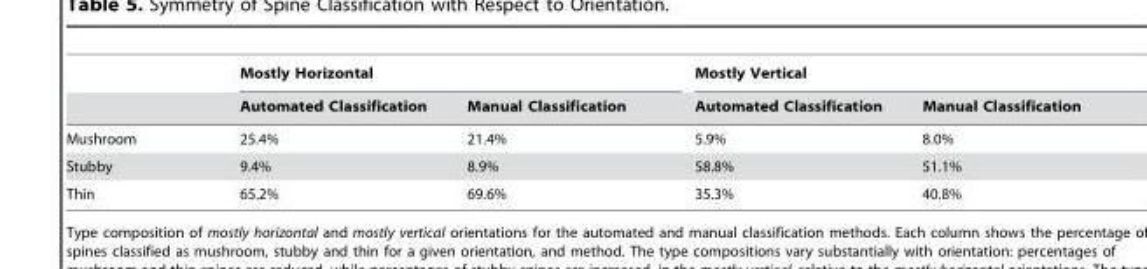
<table><thead><tr><td rowspan="2"></td><td colspan="2">Mostly Horizontal</td><td colspan="2">Mostly Vertical</td></tr><tr><td>Automated Classification</td><td>Manual Classification</td><td>Automated Classification</td><td>Manual Classification</td></tr></thead><tbody><tr><td>Mushroom</td><td>25.4%</td><td>21.4%</td><td>5.9%</td><td>8.0%</td></tr><tr><td>Stubby</td><td>9.4%</td><td>8.9%</td><td>58.8%</td><td>51.1%</td></tr><tr><td>Thin</td><td>65.2%</td><td>69.6%</td><td>35.3%</td><td>40.8%</td></tr></tbody></table>